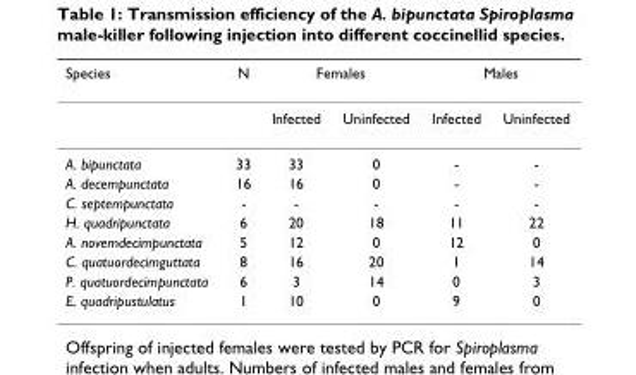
<table><thead><tr><td rowspan="2">Species</td><td rowspan="2">N</td><td colspan="2">Females</td><td colspan="2">Males</td></tr><tr><td>Infected</td><td>Uninfected</td><td>Infected</td><td>Uninfected</td></tr></thead><tbody><tr><td>A. bipunctata</td><td>33</td><td>33</td><td>0</td><td>-</td><td>-</td></tr><tr><td>A. decempunctata</td><td>16</td><td>16</td><td>0</td><td>-</td><td>-</td></tr><tr><td>C. septempunctata</td><td>-</td><td>-</td><td>-</td><td>-</td><td>-</td></tr><tr><td>H. quadripunctata</td><td>6</td><td>20</td><td>18</td><td>11</td><td>22</td></tr><tr><td>A. novemdecimpunctata</td><td>5</td><td>12</td><td>0</td><td>12</td><td>0</td></tr><tr><td>C. quatuordecimguttata</td><td>8</td><td>16</td><td>20</td><td>1</td><td>14</td></tr><tr><td>P. quatuordecimpunctata</td><td>6</td><td>3</td><td>14</td><td>0</td><td>3</td></tr><tr><td>E. quadripustulatus</td><td>1</td><td>10</td><td>0</td><td>9</td><td>0</td></tr></tbody></table>